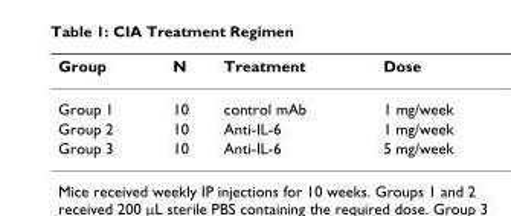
<table><thead><tr><td>Group</td><td>N</td><td>Treatment</td><td>Dose</td></tr></thead><tbody><tr><td>Group 1</td><td>10</td><td>control mAb</td><td>1 mg/week</td></tr><tr><td>Group 2</td><td>10</td><td>Anti-IL-6</td><td>1 mg/week</td></tr><tr><td>Group 3</td><td>10</td><td>Anti-IL-6</td><td>5 mg/week</td></tr></tbody></table>